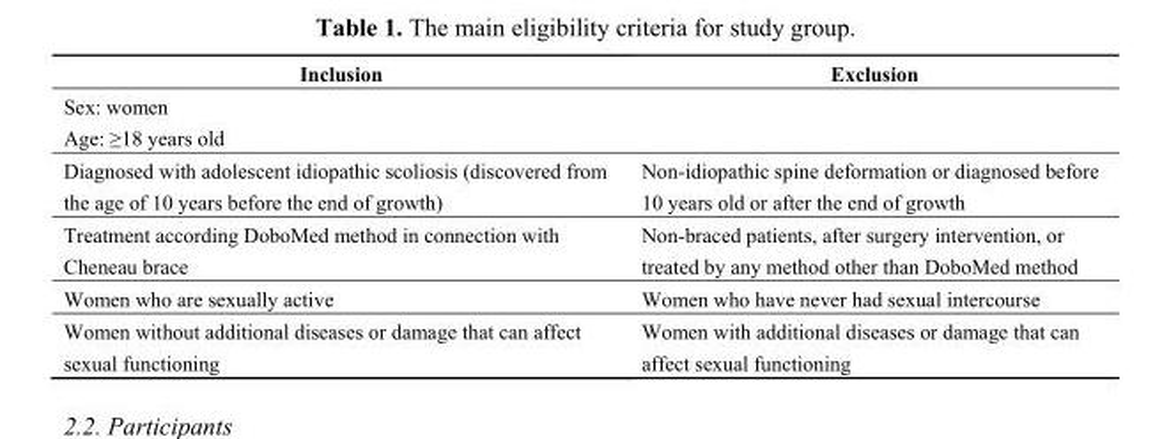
<table><thead><tr><td>Inclusion</td><td>Exclusion</td></tr></thead><tbody><tr><td>Sex: women</td><td rowspan="2"></td></tr><tr><td>Age: ≥18 years old</td></tr><tr><td>Diagnosed with adolescent idiopathic scoliosis (discovered from the age of 10 years before the end of growth)</td><td>Non-idiopathic spine deformation or diagnosed before 10 years old or after the end of growth</td></tr><tr><td>Treatment according DoboMed method in connection with Cheneau brace</td><td>Non-braced patients, after surgery intervention, or treated by any method other than DoboMed method</td></tr><tr><td>Women who are sexually active</td><td>Women who have never had sexual intercourse</td></tr><tr><td>Women without additional diseases or damage that can affect sexual functioning</td><td>Women with additional diseases or damage that can affect sexual functioning</td></tr></tbody></table>